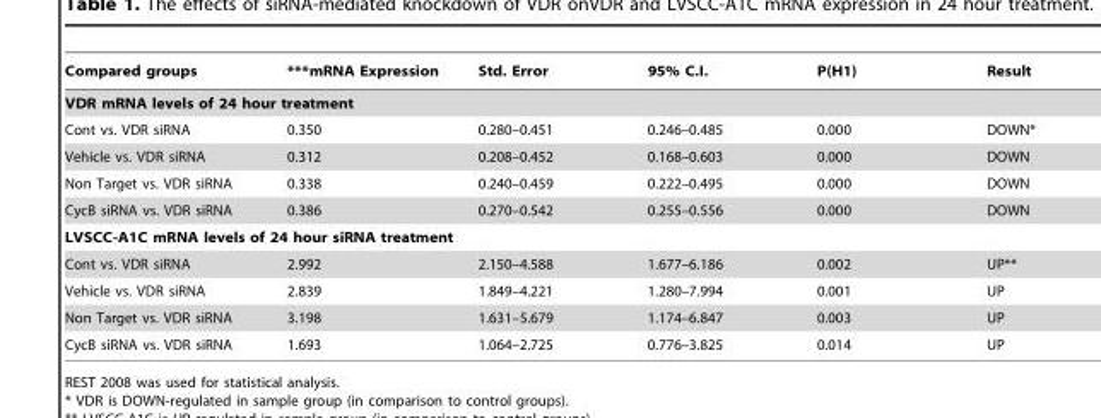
<table><thead><tr><td>Compared groups</td><td>***mRNA Expression</td><td>Std. Error</td><td>95% C.I.</td><td>P(H1)</td><td>Result</td></tr></thead><tbody><tr><td colspan="6">VDR mRNA levels of 24 hour treatment</td></tr><tr><td>Cont vs. VDR siRNA</td><td>0.350</td><td>0.280–0.451</td><td>0.246–0.485</td><td>0.000</td><td>DOWN*</td></tr><tr><td>Vehicle vs. VDR siRNA</td><td>0.312</td><td>0.208–0.452</td><td>0.168–0.603</td><td>0.000</td><td>DOWN</td></tr><tr><td>Non Target vs. VDR siRNA</td><td>0.338</td><td>0.240–0.459</td><td>0.222–0.495</td><td>0.000</td><td>DOWN</td></tr><tr><td>CycB siRNA vs. VDR siRNA</td><td>0.386</td><td>0.270–0.542</td><td>0.255–0.556</td><td>0.000</td><td>DOWN</td></tr><tr><td colspan="6">LVSCC-A1C mRNA levels of 24 hour siRNA treatment</td></tr><tr><td>Cont vs. VDR siRNA</td><td>2.992</td><td>2.150–4.588</td><td>1.677–6.186</td><td>0.002</td><td>UP**</td></tr><tr><td>Vehicle vs. VDR siRNA</td><td>2.839</td><td>1.849–4.221</td><td>1.280–7.994</td><td>0.001</td><td>UP</td></tr><tr><td>Non Target vs. VDR siRNA</td><td>3.198</td><td>1.631–5.679</td><td>1.174–6.847</td><td>0.003</td><td>UP</td></tr><tr><td>CycB siRNA vs. VDR siRNA</td><td>1.693</td><td>1.064–2.725</td><td>0.776–3.825</td><td>0.014</td><td>UP</td></tr></tbody></table>